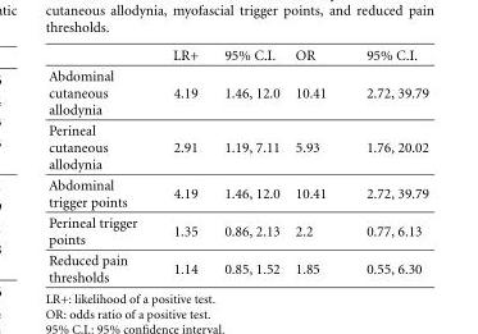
<table><thead><tr><td></td><td>LR+</td><td>95% C.I.</td><td>OR</td><td>95% C.I.</td></tr></thead><tbody><tr><td>Abdominal cutaneous allodynia</td><td>4.19</td><td>1.46, 12.0</td><td>10.41</td><td>2.72, 39.79</td></tr><tr><td>Perineal cutaneous allodynia</td><td>2.91</td><td>1.19, 7.11</td><td>5.93</td><td>1.76, 20.02</td></tr><tr><td>Abdominal trigger points</td><td>4.19</td><td>1.46, 12.0</td><td>10.41</td><td>2.72, 39.79</td></tr><tr><td>Perineal trigger points</td><td>1.35</td><td>0.86, 2.13</td><td>2.2</td><td>0.77, 6.13</td></tr><tr><td>Reduced pain thresholds</td><td>1.14</td><td>0.85, 1.52</td><td>1.85</td><td>0.55, 6.30</td></tr></tbody></table>